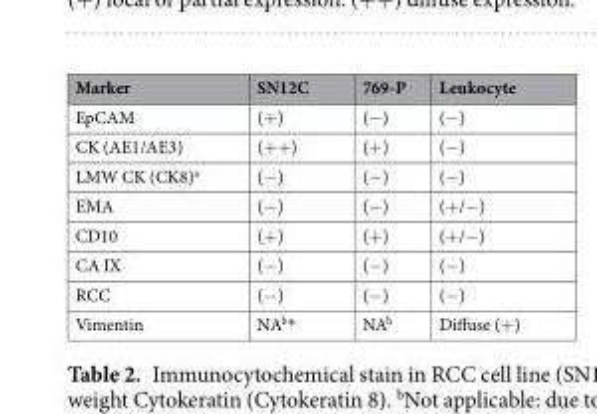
<table><thead><tr><td>Marker</td><td>SN12C</td><td>769-P</td><td>Leukocyte</td></tr></thead><tbody><tr><td>EpCAM</td><td>(+)</td><td>(−)</td><td>(−)</td></tr><tr><td>CK (AE1/AE3)</td><td>(++)</td><td>(+)</td><td>(−)</td></tr><tr><td>LMW CK (CK8)<sup>a</sup></td><td>(−)</td><td>(−)</td><td>(−)</td></tr><tr><td>EMA</td><td>(−)</td><td>(−)</td><td>(+/−)</td></tr><tr><td>CD10</td><td>(+)</td><td>(+)</td><td>(+/−)</td></tr><tr><td>CA IX</td><td>(−)</td><td>(−)</td><td>(−)</td></tr><tr><td>RCC</td><td>(−)</td><td>(−)</td><td>(−)</td></tr><tr><td>Vimentin</td><td>NA<sup>b</sup>*</td><td>NA<sup>b</sup></td><td>Diffuse (+)</td></tr></tbody></table>